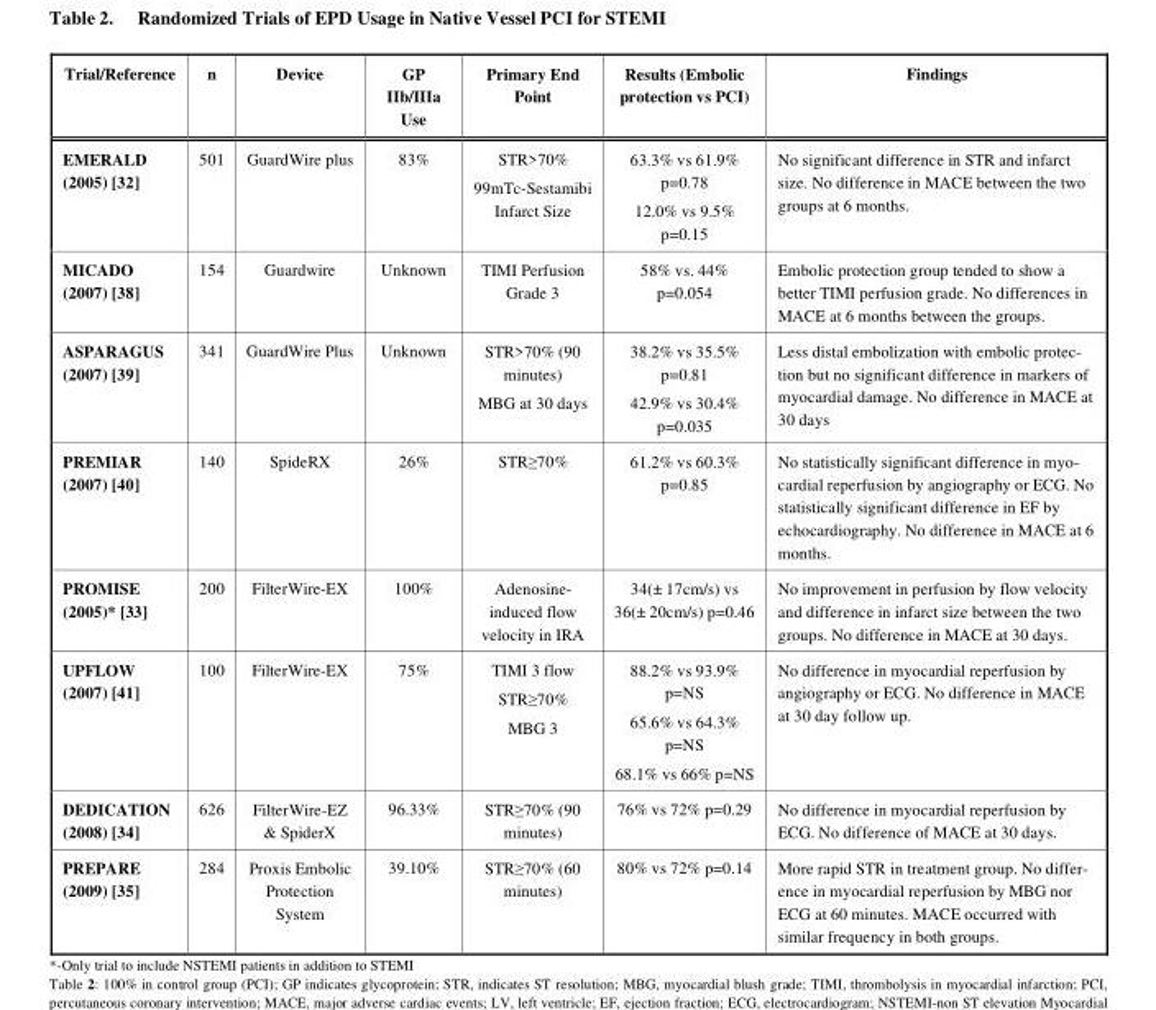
<table><thead><tr><td>Trial/Reference</td><td>n</td><td>Device</td><td>GP IIb/IIIa Use</td><td>Primary End Point</td><td>Results (Embolic protection vs PCI)</td><td>Findings</td></tr></thead><tbody><tr><td>EMERALD (2005) [32]</td><td>501</td><td>GuardWire plus</td><td>83%</td><td>STR&gt;70% 99mTc-Sestamibi Infarct Size</td><td>63.3% vs 61.9% p=0.78 12.0% vs 9.5% p=0.15</td><td>No significant difference in STR and infarct size. No difference in MACE between the two groups at 6 months.</td></tr><tr><td>MICADO (2007) [38]</td><td>154</td><td>Guardwire</td><td>Unknown</td><td>TIMI Perfusion Grade 3</td><td>58% vs. 44% p=0.054</td><td>Embolic protection group tended to show a better TIMI perfusion grade. No differences in MACE at 6 months between the groups.</td></tr><tr><td>ASPARAGUS (2007) [39]</td><td>341</td><td>GuardWire Plus</td><td>Unknown</td><td>STR&gt;70% (90 minutes) MBG at 30 days</td><td>38.2% vs 35.5% p=0.81 42.9% vs 30.4% p=0.035</td><td>Less distal embolization with embolic protec- tion but no significant difference in markers of myocardial damage. No difference in MACE at 30 days</td></tr><tr><td>PREMIAR (2007) [40]</td><td>140</td><td>SpideRX</td><td>26%</td><td>STR≥70%</td><td>61.2% vs 60.3% p=0.85</td><td>No statistically significant difference in myo- cardial reperfusion by angiography or ECG. No statistically significant difference in EF by echocardiography. No difference in MACE at 6 months.</td></tr><tr><td>PROMISE (2005)* [33]</td><td>200</td><td>FilterWire-EX</td><td>100%</td><td>Adenosine- induced flow velocity in IRA</td><td>34(± 17cm/s) vs 36(± 20cm/s) p=0.46</td><td>No improvement in perfusion by flow velocity and difference in infarct size between the two groups. No difference in MACE at 30 days.</td></tr><tr><td>UPFLOW (2007) [41]</td><td>100</td><td>FilterWire-EX</td><td>75%</td><td>TIMI 3 flow STR≥70% MBG 3</td><td>88.2% vs 93.9% p=NS 65.6% vs 64.3% p=NS 68.1% vs 66% p=NS</td><td>No difference in myocardial reperfusion by angiography or ECG. No difference in MACE at 30 day follow up.</td></tr><tr><td>DEDICATION (2008) [34]</td><td>626</td><td>FilterWire-EZ &amp; SpiderX</td><td>96.33%</td><td>STR≥70% (90 minutes)</td><td>76% vs 72% p=0.29</td><td>No difference in myocardial reperfusion by ECG. No difference of MACE at 30 days.</td></tr><tr><td>PREPARE (2009) [35]</td><td>284</td><td>Proxis Embolic Protection System</td><td>39.10%</td><td>STR≥70% (60 minutes)</td><td>80% vs 72% p=0.14</td><td>More rapid STR in treatment group. No differ- ence in myocardial reperfusion by MBG nor ECG at 60 minutes. MACE occurred with similar frequency in both groups.</td></tr></tbody></table>